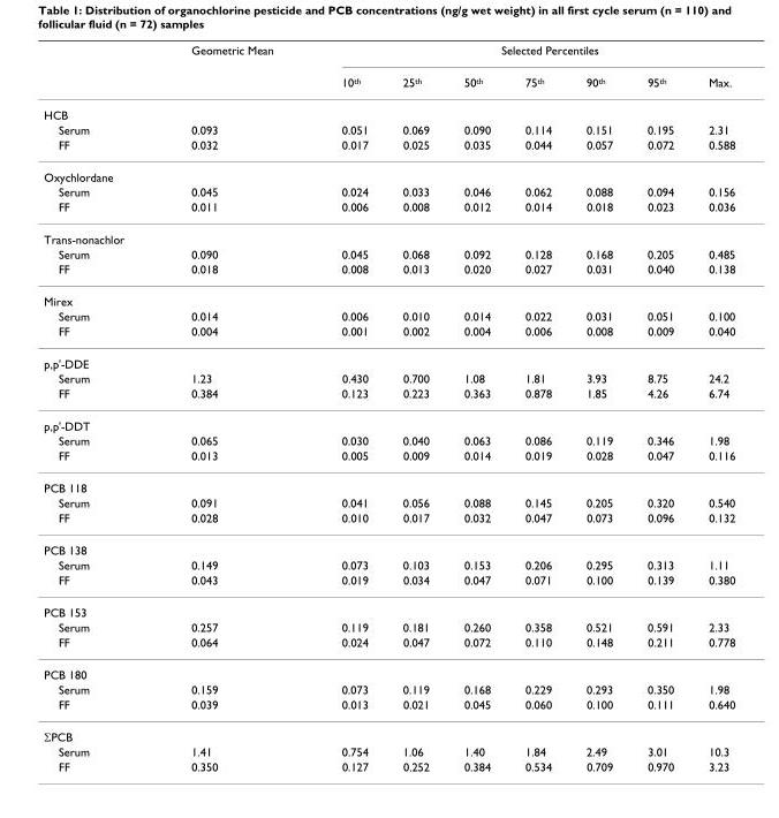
<table><thead><tr><td rowspan="2"></td><td rowspan="2">Geometric Mean</td><td colspan="7">Selected Percentiles</td></tr><tr><td>10th</td><td>25th</td><td>50th</td><td>75th</td><td>90th</td><td>95th</td><td>Max.</td></tr></thead><tbody><tr><td colspan="9">HCB</td></tr><tr><td>Serum</td><td>0.093</td><td>0.051</td><td>0.069</td><td>0.090</td><td>0.114</td><td>0.151</td><td>0.195</td><td>2.31</td></tr><tr><td>FF</td><td>0.032</td><td>0.017</td><td>0.025</td><td>0.035</td><td>0.044</td><td>0.057</td><td>0.072</td><td>0.588</td></tr><tr><td colspan="9">Oxychlordane</td></tr><tr><td>Serum</td><td>0.045</td><td>0.024</td><td>0.033</td><td>0.046</td><td>0.062</td><td>0.088</td><td>0.094</td><td>0.156</td></tr><tr><td>FF</td><td>0.011</td><td>0.006</td><td>0.008</td><td>0.012</td><td>0.014</td><td>0.018</td><td>0.023</td><td>0.036</td></tr><tr><td colspan="9">Trans-nonachlor</td></tr><tr><td>Serum</td><td>0.090</td><td>0.045</td><td>0.068</td><td>0.092</td><td>0.128</td><td>0.168</td><td>0.205</td><td>0.485</td></tr><tr><td>FF</td><td>0.018</td><td>0.008</td><td>0.013</td><td>0.020</td><td>0.027</td><td>0.031</td><td>0.040</td><td>0.138</td></tr><tr><td colspan="9">Mirex</td></tr><tr><td>Serum</td><td>0.014</td><td>0.006</td><td>0.010</td><td>0.014</td><td>0.022</td><td>0.031</td><td>0.051</td><td>0.100</td></tr><tr><td>FF</td><td>0.004</td><td>0.001</td><td>0.002</td><td>0.004</td><td>0.006</td><td>0.008</td><td>0.009</td><td>0.040</td></tr><tr><td colspan="9">p,p&#x27;-DDE</td></tr><tr><td>Serum</td><td>1.23</td><td>0.430</td><td>0.700</td><td>1.08</td><td>1.81</td><td>3.93</td><td>8.75</td><td>24.2</td></tr><tr><td>FF</td><td>0.384</td><td>0.123</td><td>0.223</td><td>0.363</td><td>0.878</td><td>1.85</td><td>4.26</td><td>6.74</td></tr><tr><td colspan="9">p,p&#x27;-DDT</td></tr><tr><td>Serum</td><td>0.065</td><td>0.030</td><td>0.040</td><td>0.063</td><td>0.086</td><td>0.119</td><td>0.346</td><td>1.98</td></tr><tr><td>FF</td><td>0.013</td><td>0.005</td><td>0.009</td><td>0.014</td><td>0.019</td><td>0.028</td><td>0.047</td><td>0.116</td></tr><tr><td colspan="9">PCB 118</td></tr><tr><td>Serum</td><td>0.091</td><td>0.041</td><td>0.056</td><td>0.088</td><td>0.145</td><td>0.205</td><td>0.320</td><td>0.540</td></tr><tr><td>FF</td><td>0.028</td><td>0.010</td><td>0.017</td><td>0.032</td><td>0.047</td><td>0.073</td><td>0.096</td><td>0.132</td></tr><tr><td colspan="9">PCB 138</td></tr><tr><td>Serum</td><td>0.149</td><td>0.073</td><td>0.103</td><td>0.153</td><td>0.206</td><td>0.295</td><td>0.313</td><td>1.11</td></tr><tr><td>FF</td><td>0.043</td><td>0.019</td><td>0.034</td><td>0.047</td><td>0.071</td><td>0.100</td><td>0.139</td><td>0.380</td></tr><tr><td colspan="9">PCB 153</td></tr><tr><td>Serum</td><td>0.257</td><td>0.119</td><td>0.181</td><td>0.260</td><td>0.358</td><td>0.521</td><td>0.591</td><td>2.33</td></tr><tr><td>FF</td><td>0.064</td><td>0.024</td><td>0.047</td><td>0.072</td><td>0.110</td><td>0.148</td><td>0.211</td><td>0.778</td></tr><tr><td colspan="9">PCB 180</td></tr><tr><td>Serum</td><td>0.159</td><td>0.073</td><td>0.119</td><td>0.168</td><td>0.229</td><td>0.293</td><td>0.350</td><td>1.98</td></tr><tr><td>FF</td><td>0.039</td><td>0.013</td><td>0.021</td><td>0.045</td><td>0.060</td><td>0.100</td><td>0.111</td><td>0.640</td></tr><tr><td colspan="9">ΣPCB</td></tr><tr><td>Serum</td><td>1.41</td><td>0.754</td><td>1.06</td><td>1.40</td><td>1.84</td><td>2.49</td><td>3.01</td><td>10.3</td></tr><tr><td>FF</td><td>0.350</td><td>0.127</td><td>0.252</td><td>0.384</td><td>0.534</td><td>0.709</td><td>0.970</td><td>3.23</td></tr></tbody></table>